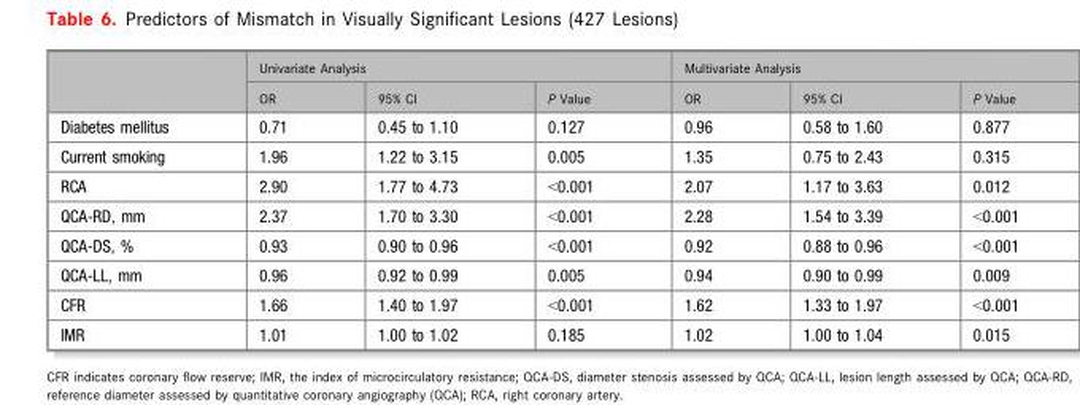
<table><thead><tr><td rowspan="2"></td><td colspan="3">Univariate Analysis</td><td colspan="3">Multivariate Analysis</td></tr><tr><td>OR</td><td>95% CI</td><td>P Value</td><td>OR</td><td>95% CI</td><td>P Value</td></tr></thead><tbody><tr><td>Diabetes mellitus</td><td>0.71</td><td>0.45 to 1.10</td><td>0.127</td><td>0.96</td><td>0.58 to 1.60</td><td>0.877</td></tr><tr><td>Current smoking</td><td>1.96</td><td>1.22 to 3.15</td><td>0.005</td><td>1.35</td><td>0.75 to 2.43</td><td>0.315</td></tr><tr><td>RCA</td><td>2.90</td><td>1.77 to 4.73</td><td>&lt;0.001</td><td>2.07</td><td>1.17 to 3.63</td><td>0.012</td></tr><tr><td>QCA-RD, mm</td><td>2.37</td><td>1.70 to 3.30</td><td>&lt;0.001</td><td>2.28</td><td>1.54 to 3.39</td><td>&lt;0.001</td></tr><tr><td>QCA-DS, %</td><td>0.93</td><td>0.90 to 0.96</td><td>&lt;0.001</td><td>0.92</td><td>0.88 to 0.96</td><td>&lt;0.001</td></tr><tr><td>QCA-LL, mm</td><td>0.96</td><td>0.92 to 0.99</td><td>0.005</td><td>0.94</td><td>0.90 to 0.99</td><td>0.009</td></tr><tr><td>CFR</td><td>1.66</td><td>1.40 to 1.97</td><td>&lt;0.001</td><td>1.62</td><td>1.33 to 1.97</td><td>&lt;0.001</td></tr><tr><td>IMR</td><td>1.01</td><td>1.00 to 1.02</td><td>0.185</td><td>1.02</td><td>1.00 to 1.04</td><td>0.015</td></tr></tbody></table>